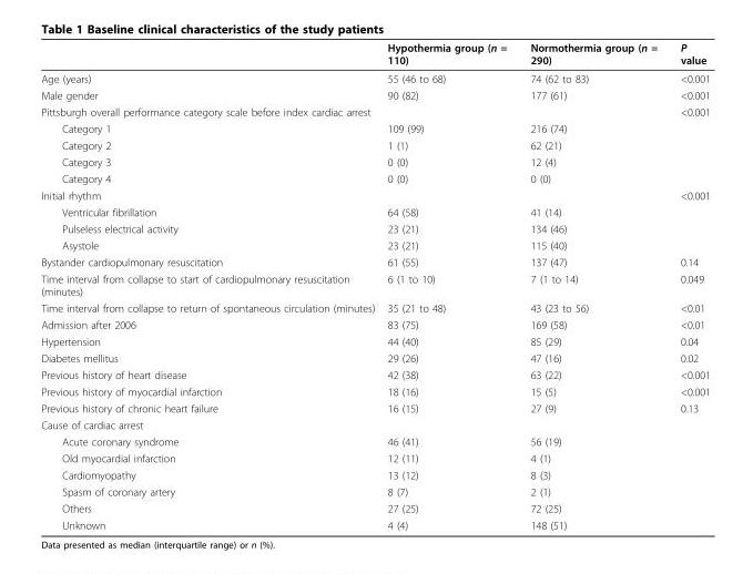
<table><thead><tr><td></td><td>Hypothermia group (n = 110)</td><td>Normothermia group (n = 290)</td><td>P value</td></tr></thead><tbody><tr><td>Age (years)</td><td>55 (46 to 68)</td><td>74 (62 to 83)</td><td>&lt;0.001</td></tr><tr><td>Male gender</td><td>90 (82)</td><td>177 (61)</td><td>&lt;0.001</td></tr><tr><td>Pittsburgh overall performance category scale before index cardiac arrest</td><td></td><td></td><td>&lt;0.001</td></tr><tr><td>Category 1</td><td>109 (99)</td><td>216 (74)</td><td></td></tr><tr><td>Category 2</td><td>1 (1)</td><td>62 (21)</td><td></td></tr><tr><td>Category 3</td><td>0 (0)</td><td>12 (4)</td><td></td></tr><tr><td>Category 4</td><td>0 (0)</td><td>0 (0)</td><td></td></tr><tr><td>Initial rhythm</td><td></td><td></td><td>&lt;0.001</td></tr><tr><td>Ventricular fibrillation</td><td>64 (58)</td><td>41 (14)</td><td></td></tr><tr><td>Pulseless electrical activity</td><td>23 (21)</td><td>134 (46)</td><td></td></tr><tr><td>Asystole</td><td>23 (21)</td><td>115 (40)</td><td></td></tr><tr><td>Bystander cardiopulmonary resuscitation</td><td>61 (55)</td><td>137 (47)</td><td>0.14</td></tr><tr><td>Time interval from collapse to start of cardiopulmonary resuscitation (minutes)</td><td>6 (1 to 10)</td><td>7 (1 to 14)</td><td>0.049</td></tr><tr><td>Time interval from collapse to return of spontaneous circulation (minutes)</td><td>35 (21 to 48)</td><td>43 (23 to 56)</td><td>&lt;0.01</td></tr><tr><td>Admission after 2006</td><td>83 (75)</td><td>169 (58)</td><td>&lt;0.01</td></tr><tr><td>Hypertension</td><td>44 (40)</td><td>85 (29)</td><td>0.04</td></tr><tr><td>Diabetes mellitus</td><td>29 (26)</td><td>47 (16)</td><td>0.02</td></tr><tr><td>Previous history of heart disease</td><td>42 (38)</td><td>63 (22)</td><td>&lt;0.001</td></tr><tr><td>Previous history of myocardial infarction</td><td>18 (16)</td><td>15 (5)</td><td>&lt;0.001</td></tr><tr><td>Previous history of chronic heart failure</td><td>16 (15)</td><td>27 (9)</td><td>0.13</td></tr><tr><td colspan="4">Cause of cardiac arrest</td></tr><tr><td>Acute coronary syndrome</td><td>46 (41)</td><td>56 (19)</td><td></td></tr><tr><td>Old myocardial infarction</td><td>12 (11)</td><td>4 (1)</td><td></td></tr><tr><td>Cardiomyopathy</td><td>13 (12)</td><td>8 (3)</td><td></td></tr><tr><td>Spasm of coronary artery</td><td>8 (7)</td><td>2 (1)</td><td></td></tr><tr><td>Others</td><td>27 (25)</td><td>72 (25)</td><td></td></tr><tr><td>Unknown</td><td>4 (4)</td><td>148 (51)</td><td></td></tr></tbody></table>